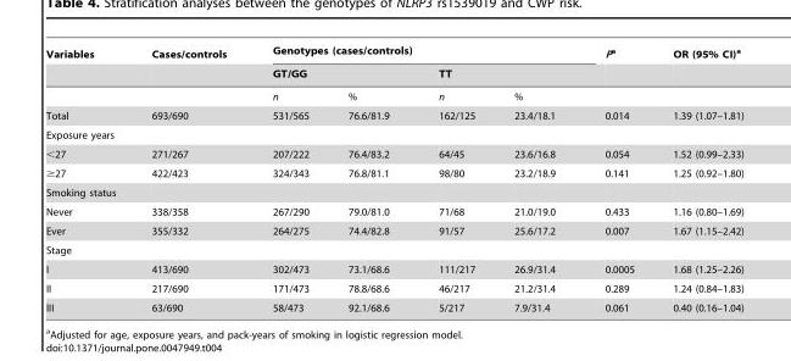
<table><thead><tr><td rowspan="3">Variables</td><td rowspan="3">Cases/controls</td><td colspan="4">Genotypes (cases/controls)</td><td rowspan="3">Pa</td><td rowspan="3">OR (95% CI)<sup>a</sup></td></tr><tr><td colspan="2">GT/GG</td><td colspan="2">TT</td></tr><tr><td>n</td><td>%</td><td>n</td><td>%</td></tr></thead><tbody><tr><td>Total</td><td>693/690</td><td>531/565</td><td>76.6/81.9</td><td>162/125</td><td>23.4/18.1</td><td>0.014</td><td>1.39 (1.07–1.81)</td></tr><tr><td colspan="8">Exposure years</td></tr><tr><td>&lt;27</td><td>271/267</td><td>207/222</td><td>76.4/83.2</td><td>64/45</td><td>23.6/16.8</td><td>0.054</td><td>1.52 (0.99–2.33)</td></tr><tr><td>≥27</td><td>422/423</td><td>324/343</td><td>76.8/81.1</td><td>98/80</td><td>23.2/18.9</td><td>0.141</td><td>1.25 (0.92–1.80)</td></tr><tr><td colspan="8">Smoking status</td></tr><tr><td>Never</td><td>338/358</td><td>267/290</td><td>79.0/81.0</td><td>71/68</td><td>21.0/19.0</td><td>0.433</td><td>1.16 (0.80–1.69)</td></tr><tr><td>Ever</td><td>355/332</td><td>264/275</td><td>74.4/82.8</td><td>91/57</td><td>25.6/17.2</td><td>0.007</td><td>1.67 (1.15–2.42)</td></tr><tr><td colspan="8">Stage</td></tr><tr><td>I</td><td>413/690</td><td>302/473</td><td>73.1/68.6</td><td>111/217</td><td>26.9/31.4</td><td>0.0005</td><td>1.68 (1.25–2.26)</td></tr><tr><td>II</td><td>217/690</td><td>171/473</td><td>78.8/68.6</td><td>46/217</td><td>21.2/31.4</td><td>0.289</td><td>1.24 (0.84–1.83)</td></tr><tr><td>III</td><td>63/690</td><td>58/473</td><td>92.1/68.6</td><td>5/217</td><td>7.9/31.4</td><td>0.061</td><td>0.40 (0.16–1.04)</td></tr></tbody></table>